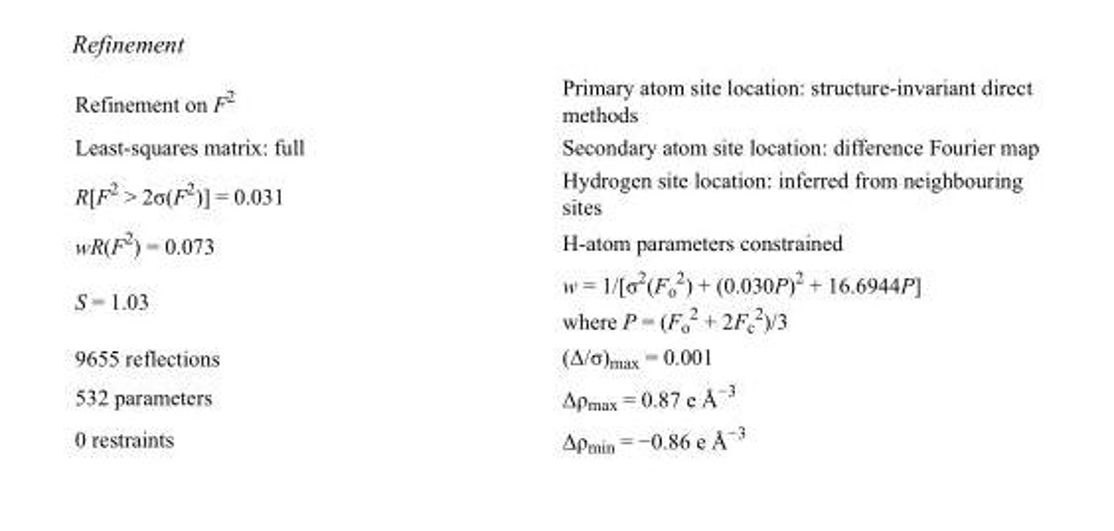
<table><tbody><tr><td>Refinement on F<sup>2</sup></td><td>Primary atom site location: structure-invariant direct methods</td></tr><tr><td>Least-squares matrix: full</td><td>Secondary atom site location: difference Fourier map</td></tr><tr><td>R[F<sup>2</sup> &gt; 2σ(F<sup>2</sup>)] = 0.031</td><td>Hydrogen site location: inferred from neighbouring sites</td></tr><tr><td>wR(F<sup>2</sup>) = 0.073</td><td>H-atom parameters constrained</td></tr><tr><td>S = 1.03</td><td>w = 1/[σ<sup>2</sup>(F<sub>o</sub> <sup>2</sup>) + (0.030P)<sup>2</sup> + 16.6944P] where P = (F<sub>o</sub> <sup>2</sup> + 2F<sub>c</sub> <sup>2</sup>)/3</td></tr><tr><td>9655 reflections</td><td>(Δ/σ)<sub>max</sub> = 0.001</td></tr><tr><td>532 parameters</td><td>Δρ<sub>max</sub> = 0.87 e Å<sup>−3</sup></td></tr><tr><td>0 restraints</td><td>Δρ<sub>min</sub> = −0.86 e Å<sup>−3</sup></td></tr></tbody></table>